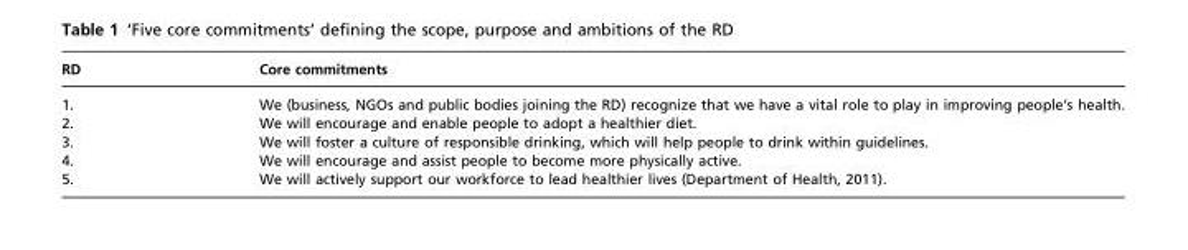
<table><thead><tr><td>RD</td><td>Core commitments</td></tr></thead><tbody><tr><td>1.</td><td>We (business, NGOs and public bodies joining the RD) recognize that we have a vital role to play in improving people’s health.</td></tr><tr><td>2.</td><td>We will encourage and enable people to adopt a healthier diet.</td></tr><tr><td>3.</td><td>We will foster a culture of responsible drinking, which will help people to drink within guidelines.</td></tr><tr><td>4.</td><td>We will encourage and assist people to become more physically active.</td></tr><tr><td>5.</td><td>We will actively support our workforce to lead healthier lives (Department of Health, 2011).</td></tr></tbody></table>